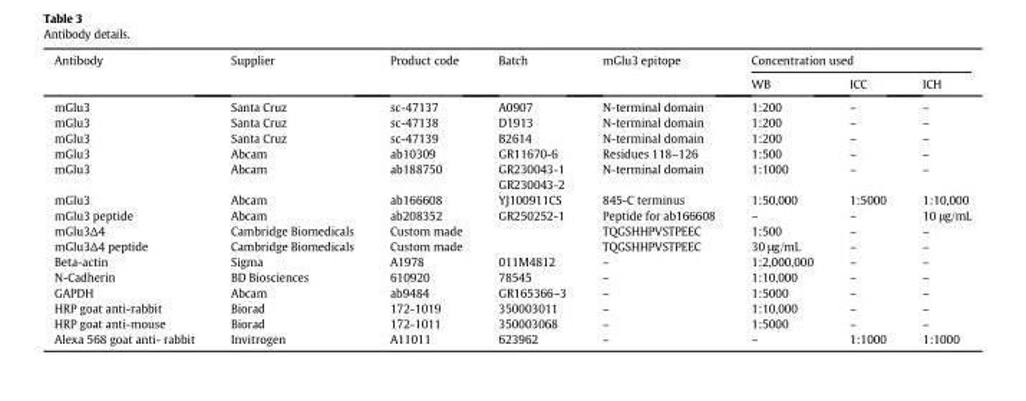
<table><thead><tr><td rowspan="2">Antibody</td><td rowspan="2">Supplier</td><td rowspan="2">Product code</td><td rowspan="2">Batch</td><td rowspan="2">mGlu3 epitope</td><td colspan="3">Concentration used</td></tr><tr><td>WB</td><td>ICC</td><td>ICH</td></tr></thead><tbody><tr><td>mGlu3</td><td>Santa Cruz</td><td>sc-47137</td><td>A0907</td><td>N-terminal domain</td><td>1:200</td><td>–</td><td>–</td></tr><tr><td>mGlu3</td><td>Santa Cruz</td><td>sc-47138</td><td>D1913</td><td>N-terminal domain</td><td>1:200</td><td>–</td><td>–</td></tr><tr><td>mGlu3</td><td>Santa Cruz</td><td>sc-47139</td><td>B2614</td><td>N-terminal domain</td><td>1:200</td><td>–</td><td>–</td></tr><tr><td>mGlu3</td><td>Abcam</td><td>ab10309</td><td>GR11670-6</td><td>Residues 118–126</td><td>1:500</td><td>–</td><td>–</td></tr><tr><td>mGlu3</td><td>Abcam</td><td>ab188750</td><td>GR230043-1 GR230043-2</td><td>N-terminal domain</td><td>1:1000</td><td>–</td><td>–</td></tr><tr><td>mGlu3</td><td>Abcam</td><td>ab166608</td><td>YJ100911CS</td><td>845-C terminus</td><td>1:50,000</td><td>1:5000</td><td>1:10,000</td></tr><tr><td>mGlu3 peptide</td><td>Abcam</td><td>ab208352</td><td>GR250252-1</td><td>Peptide for ab166608</td><td>–</td><td>–</td><td>10 μg/mL</td></tr><tr><td>mGlu3Δ4</td><td>Cambridge Biomedicals</td><td>Custom made</td><td></td><td>TQGSHHPVSTPEEC</td><td>1:500</td><td>–</td><td>–</td></tr><tr><td>mGlu3Δ4 peptide</td><td>Cambridge Biomedicals</td><td>Custom made</td><td></td><td>TQGSHHPVSTPEEC</td><td>30 μg/mL</td><td>–</td><td>–</td></tr><tr><td>Βeta-actin</td><td>Sigma</td><td>A1978</td><td>011M4812</td><td>–</td><td>1:2,000,000</td><td>–</td><td>–</td></tr><tr><td>N-Cadherin</td><td>BD Biosciences</td><td>610920</td><td>78545</td><td>–</td><td>1:10,000</td><td>–</td><td>–</td></tr><tr><td>GAPDH</td><td>Abcam</td><td>ab9484</td><td>GR165366–3</td><td>–</td><td>1:5000</td><td>–</td><td>–</td></tr><tr><td>HRP goat anti-rabbit</td><td>Biorad</td><td>172-1019</td><td>350003011</td><td>–</td><td>1:10,000</td><td>–</td><td>–</td></tr><tr><td>HRP goat anti-mouse</td><td>Biorad</td><td>172-1011</td><td>350003068</td><td>–</td><td>1:5000</td><td>–</td><td>–</td></tr><tr><td>Alexa 568 goat anti- rabbit</td><td>Invitrogen</td><td>A11011</td><td>623962</td><td>–</td><td>–</td><td>1:1000</td><td>1:1000</td></tr></tbody></table>